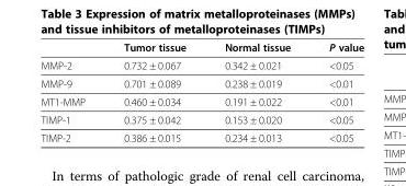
<table><thead><tr><td></td><td>Tumor tissue</td><td>Normal tissue</td><td>P value</td></tr></thead><tbody><tr><td>MMP-2</td><td>0.732 ± 0.067</td><td>0.342 ± 0.021</td><td>&lt;0.05</td></tr><tr><td>MMP-9</td><td>0.701 ± 0.089</td><td>0.238 ± 0.019</td><td>&lt;0.01</td></tr><tr><td>MT1-MMP</td><td>0.460 ± 0.034</td><td>0.191 ± 0.022</td><td>&lt;0.01</td></tr><tr><td>TIMP-1</td><td>0.375 ± 0.042</td><td>0.153 ± 0.020</td><td>&lt;0.05</td></tr><tr><td>TIMP-2</td><td>0.386 ± 0.015</td><td>0.234 ± 0.013</td><td>&lt;0.05</td></tr></tbody></table>